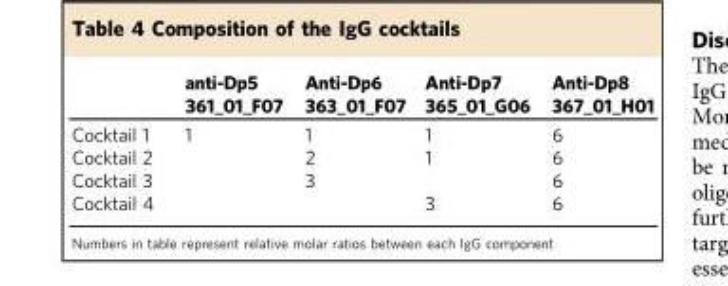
<table><thead><tr><td></td><td>anti-Dp5 361_01_F07</td><td>Anti-Dp6 363_01_F07</td><td>Anti-Dp7 365_01_G06</td><td>Anti-Dp8 367_01_H01</td></tr></thead><tbody><tr><td>Cocktail 1</td><td>1</td><td>1</td><td>1</td><td>6</td></tr><tr><td>Cocktail 2</td><td></td><td>2</td><td>1</td><td>6</td></tr><tr><td>Cocktail 3</td><td></td><td>3</td><td></td><td>6</td></tr><tr><td>Cocktail 4</td><td></td><td></td><td>3</td><td>6</td></tr></tbody></table>